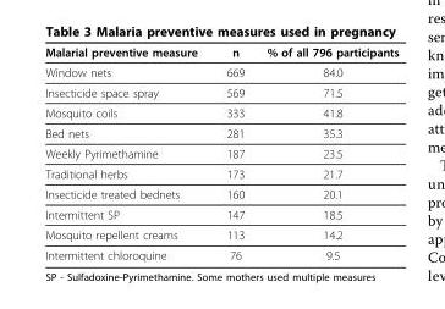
<table><thead><tr><td>Malarial preventive measure</td><td>n</td><td>% of all 796 participants</td></tr></thead><tbody><tr><td>Window nets</td><td>669</td><td>84.0</td></tr><tr><td>Insecticide space spray</td><td>569</td><td>71.5</td></tr><tr><td>Mosquito coils</td><td>333</td><td>41.8</td></tr><tr><td>Bed nets</td><td>281</td><td>35.3</td></tr><tr><td>Weekly Pyrimethamine</td><td>187</td><td>23.5</td></tr><tr><td>Traditional herbs</td><td>173</td><td>21.7</td></tr><tr><td>Insecticide treated bednets</td><td>160</td><td>20.1</td></tr><tr><td>Intermittent SP</td><td>147</td><td>18.5</td></tr><tr><td>Mosquito repellent creams</td><td>113</td><td>14.2</td></tr><tr><td>Intermittent chloroquine</td><td>76</td><td>9.5</td></tr></tbody></table>